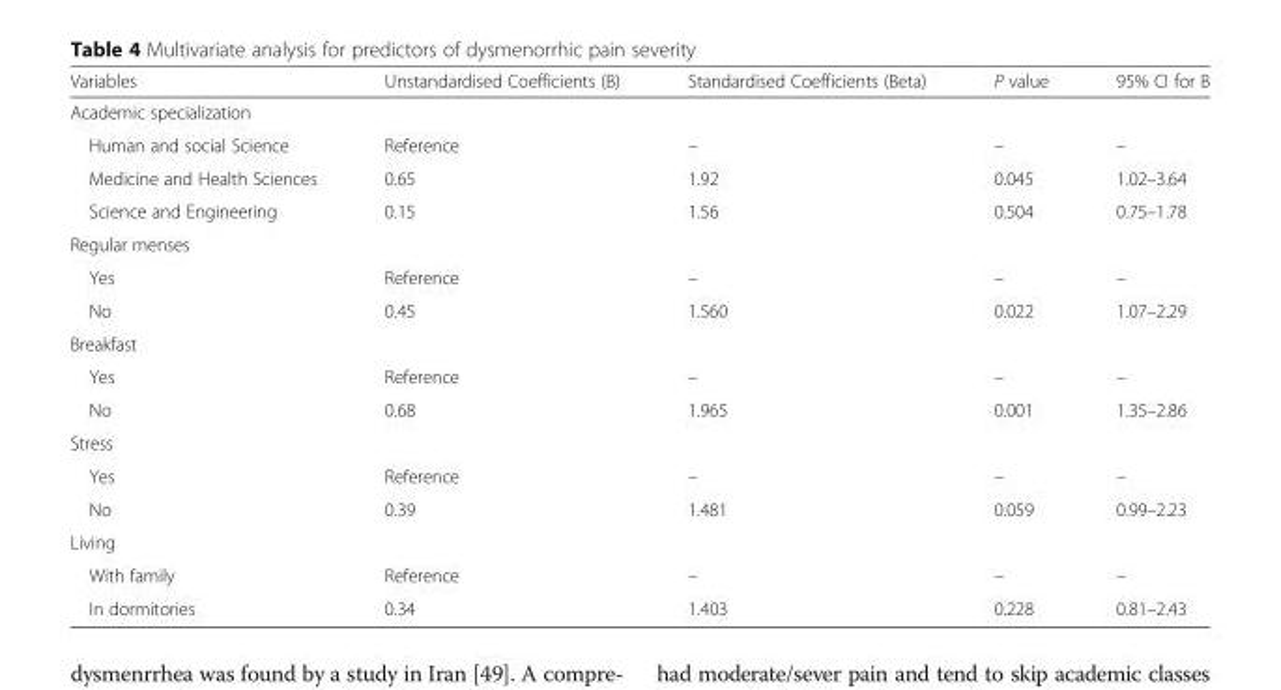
<table><thead><tr><td>Variables</td><td>Unstandardised Coefficients (B)</td><td>Standardised Coefficients (Beta)</td><td>P value</td><td>95% CI for B</td></tr></thead><tbody><tr><td colspan="5">Academic specialization</td></tr><tr><td>Human and social Science</td><td>Reference</td><td>–</td><td>–</td><td>–</td></tr><tr><td>Medicine and Health Sciences</td><td>0.65</td><td>1.92</td><td>0.045</td><td>1.02–3.64</td></tr><tr><td>Science and Engineering</td><td>0.15</td><td>1.56</td><td>0.504</td><td>0.75–1.78</td></tr><tr><td colspan="5">Regular menses</td></tr><tr><td>Yes</td><td>Reference</td><td>–</td><td>–</td><td>–</td></tr><tr><td>No</td><td>0.45</td><td>1.560</td><td>0.022</td><td>1.07–2.29</td></tr><tr><td colspan="5">Breakfast</td></tr><tr><td>Yes</td><td>Reference</td><td>–</td><td>–</td><td>–</td></tr><tr><td>No</td><td>0.68</td><td>1.965</td><td>0.001</td><td>1.35–2.86</td></tr><tr><td colspan="5">Stress</td></tr><tr><td>Yes</td><td>Reference</td><td>–</td><td>–</td><td>–</td></tr><tr><td>No</td><td>0.39</td><td>1.481</td><td>0.059</td><td>0.99–2.23</td></tr><tr><td colspan="5">Living</td></tr><tr><td>With family</td><td>Reference</td><td>–</td><td>–</td><td>–</td></tr><tr><td>In dormitories</td><td>0.34</td><td>1.403</td><td>0.228</td><td>0.81–2.43</td></tr></tbody></table>